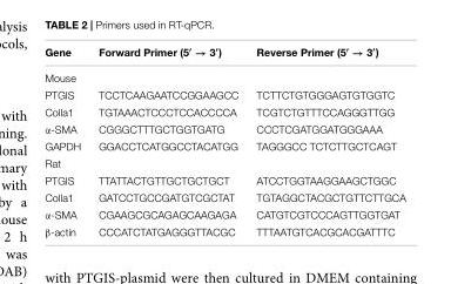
<table><thead><tr><td>Gene</td><td>Forward Primer (5′ → 3′)</td><td>Reverse Primer (5′ → 3′)</td></tr></thead><tbody><tr><td colspan="3">Mouse</td></tr><tr><td>PTGIS</td><td>TCCTCAAGAATCCGGAAGCC</td><td>TCTTCTGTGGGAGTGTGGTC</td></tr><tr><td>Colla1</td><td>TGTAAACTCCCTCCACCCCA</td><td>TCGTCTGTTTCCAGGGTTGG</td></tr><tr><td>α-SMA</td><td>CGGGCTTTGCTGGTGATG</td><td>CCCTCGATGGATGGGAAA</td></tr><tr><td>GAPDH</td><td>GGACCTCATGGCCTACATGG</td><td>TAGGGCC TCTCTTGCTCAGT</td></tr><tr><td colspan="3">Rat</td></tr><tr><td>PTGIS</td><td>TTATTACTGTTGCTGCTGCT</td><td>ATCCTGGTAAGGAAGCTGGC</td></tr><tr><td>Colla1</td><td>GATCCTGCCGATGTCGCTAT</td><td>TGTAGGCTACGCTGTTCTTGCA</td></tr><tr><td>α-SMA</td><td>CGAAGCGCAGAGCAAGAGA</td><td>CATGTCGTCCCAGTTGGTGAT</td></tr><tr><td>β-actin</td><td>CCCATCTATGAGGGTTACGC</td><td>TTTAATGTCACGCACGATTTC</td></tr></tbody></table>